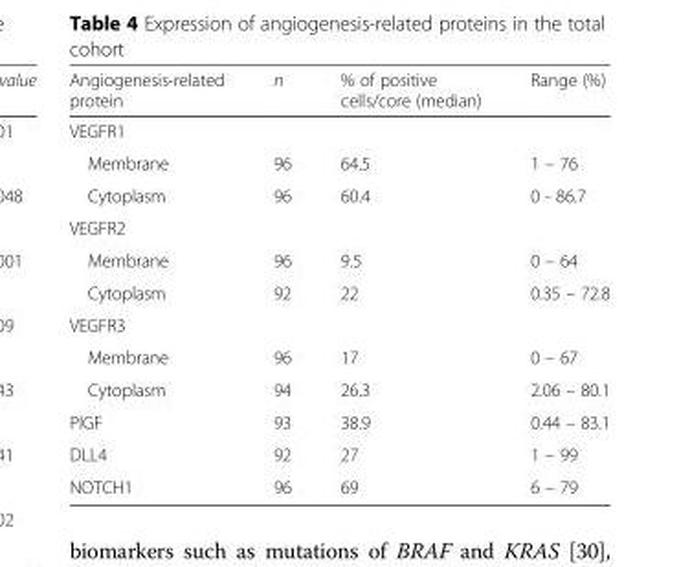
<table><thead><tr><td>Angiogenesis-related protein</td><td>n</td><td>% of positive cells/core (median)</td><td>Range (%)</td></tr></thead><tbody><tr><td colspan="4">VEGFR1</td></tr><tr><td>Membrane</td><td>96</td><td>64.5</td><td>1 – 76</td></tr><tr><td>Cytoplasm</td><td>96</td><td>60.4</td><td>0 - 86.7</td></tr><tr><td colspan="4">VEGFR2</td></tr><tr><td>Membrane</td><td>96</td><td>9.5</td><td>0 – 64</td></tr><tr><td>Cytoplasm</td><td>92</td><td>22</td><td>0.35 – 72.8</td></tr><tr><td colspan="4">VEGFR3</td></tr><tr><td>Membrane</td><td>96</td><td>17</td><td>0 – 67</td></tr><tr><td>Cytoplasm</td><td>94</td><td>26.3</td><td>2.06 – 80.1</td></tr><tr><td>PlGF</td><td>93</td><td>38.9</td><td>0.44 – 83.1</td></tr><tr><td>DLL4</td><td>92</td><td>27</td><td>1 – 99</td></tr><tr><td>NOTCH1</td><td>96</td><td>69</td><td>6 – 79</td></tr></tbody></table>